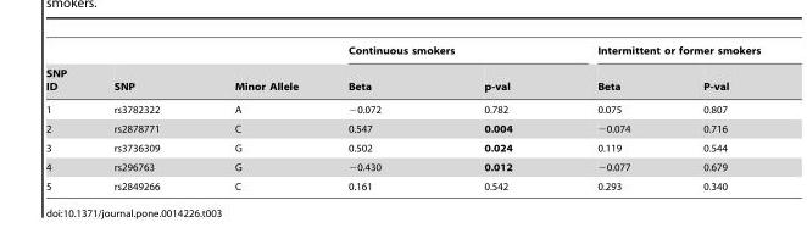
<table><thead><tr><td rowspan="2">SNP ID</td><td rowspan="2">SNP</td><td rowspan="2">Minor Allele</td><td colspan="2">Continuous smokers</td><td colspan="2">Intermittent or former smokers</td></tr><tr><td>Beta</td><td>p-val</td><td>Beta</td><td>P-val</td></tr></thead><tbody><tr><td>1</td><td>rs3782322</td><td>A</td><td>−0.072</td><td>0.782</td><td>0.075</td><td>0.807</td></tr><tr><td>2</td><td>rs2878771</td><td>C</td><td>0.547</td><td>0.004</td><td>−0.074</td><td>0.716</td></tr><tr><td>3</td><td>rs3736309</td><td>G</td><td>0.502</td><td>0.024</td><td>0.119</td><td>0.544</td></tr><tr><td>4</td><td>rs296763</td><td>G</td><td>−0.430</td><td>0.012</td><td>−0.077</td><td>0.679</td></tr><tr><td>5</td><td>rs2849266</td><td>C</td><td>0.161</td><td>0.542</td><td>0.293</td><td>0.340</td></tr></tbody></table>